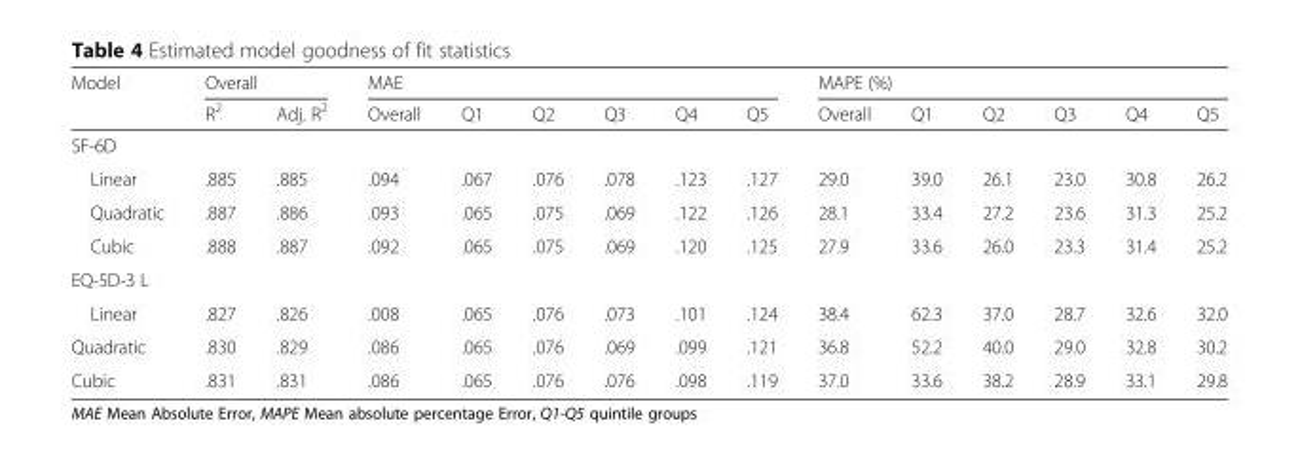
<table><thead><tr><td rowspan="2">Model</td><td colspan="2">Overall</td><td colspan="6">MAE</td><td colspan="6">MAPE (%)</td></tr><tr><td>R<sup>2</sup></td><td>Adj. R<sup>2</sup></td><td>Overall</td><td>Q1</td><td>Q2</td><td>Q3</td><td>Q4</td><td>Q5</td><td>Overall</td><td>Q1</td><td>Q2</td><td>Q3</td><td>Q4</td><td>Q5</td></tr></thead><tbody><tr><td colspan="15">SF-6D</td></tr><tr><td>Linear</td><td>.885</td><td>.885</td><td>.094</td><td>.067</td><td>.076</td><td>.078</td><td>.123</td><td>.127</td><td>29.0</td><td>39.0</td><td>26.1</td><td>23.0</td><td>30.8</td><td>26.2</td></tr><tr><td>Quadratic</td><td>.887</td><td>.886</td><td>.093</td><td>.065</td><td>.075</td><td>.069</td><td>.122</td><td>.126</td><td>28.1</td><td>33.4</td><td>27.2</td><td>23.6</td><td>31.3</td><td>25.2</td></tr><tr><td>Cubic</td><td>.888</td><td>.887</td><td>.092</td><td>.065</td><td>.075</td><td>.069</td><td>.120</td><td>.125</td><td>27.9</td><td>33.6</td><td>26.0</td><td>23.3</td><td>31.4</td><td>25.2</td></tr><tr><td colspan="15">EQ-5D-3 L</td></tr><tr><td>Linear</td><td>.827</td><td>.826</td><td>.008</td><td>.065</td><td>.076</td><td>.073</td><td>.101</td><td>.124</td><td>38.4</td><td>62.3</td><td>37.0</td><td>28.7</td><td>32.6</td><td>32.0</td></tr><tr><td>Quadratic</td><td>.830</td><td>.829</td><td>.086</td><td>.065</td><td>.076</td><td>.069</td><td>.099</td><td>.121</td><td>36.8</td><td>52.2</td><td>40.0</td><td>29.0</td><td>32.8</td><td>30.2</td></tr><tr><td>Cubic</td><td>.831</td><td>.831</td><td>.086</td><td>.065</td><td>.076</td><td>.076</td><td>.098</td><td>.119</td><td>37.0</td><td>33.6</td><td>38.2</td><td>28.9</td><td>33.1</td><td>29.8</td></tr></tbody></table>